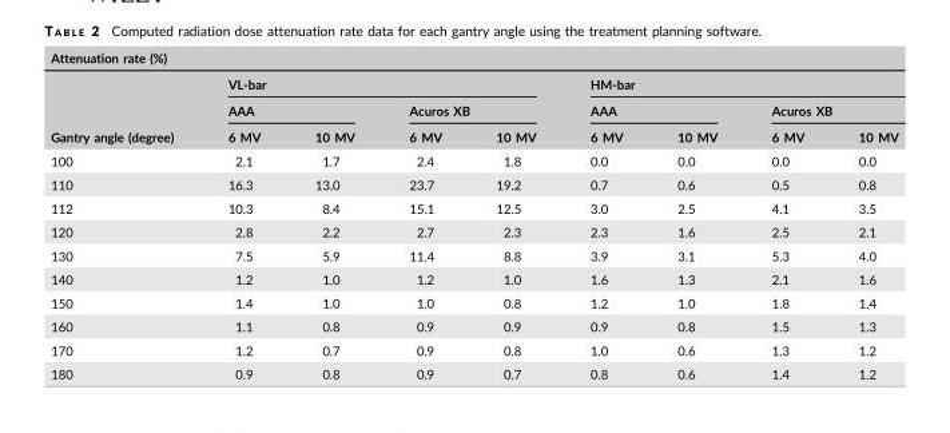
<table><thead><tr><td colspan="9">Attenuation rate (%)</td></tr><tr><td rowspan="3">Gantry angle (degree)</td><td colspan="4">VL-bar</td><td colspan="4">HM-bar</td></tr><tr><td colspan="2">AAA</td><td colspan="2">Acuros XB</td><td colspan="2">AAA</td><td colspan="2">Acuros XB</td></tr><tr><td>6 MV</td><td>10 MV</td><td>6 MV</td><td>10 MV</td><td>6 MV</td><td>10 MV</td><td>6 MV</td><td>10 MV</td></tr></thead><tbody><tr><td>100</td><td>2.1</td><td>1.7</td><td>2.4</td><td>1.8</td><td>0.0</td><td>0.0</td><td>0.0</td><td>0.0</td></tr><tr><td>110</td><td>16.3</td><td>13.0</td><td>23.7</td><td>19.2</td><td>0.7</td><td>0.6</td><td>0.5</td><td>0.8</td></tr><tr><td>112</td><td>10.3</td><td>8.4</td><td>15.1</td><td>12.5</td><td>3.0</td><td>2.5</td><td>4.1</td><td>3.5</td></tr><tr><td>120</td><td>2.8</td><td>2.2</td><td>2.7</td><td>2.3</td><td>2.3</td><td>1.6</td><td>2.5</td><td>2.1</td></tr><tr><td>130</td><td>7.5</td><td>5.9</td><td>11.4</td><td>8.8</td><td>3.9</td><td>3.1</td><td>5.3</td><td>4.0</td></tr><tr><td>140</td><td>1.2</td><td>1.0</td><td>1.2</td><td>1.0</td><td>1.6</td><td>1.3</td><td>2.1</td><td>1.6</td></tr><tr><td>150</td><td>1.4</td><td>1.0</td><td>1.0</td><td>0.8</td><td>1.2</td><td>1.0</td><td>1.8</td><td>1.4</td></tr><tr><td>160</td><td>1.1</td><td>0.8</td><td>0.9</td><td>0.9</td><td>0.9</td><td>0.8</td><td>1.5</td><td>1.3</td></tr><tr><td>170</td><td>1.2</td><td>0.7</td><td>0.9</td><td>0.8</td><td>1.0</td><td>0.6</td><td>1.3</td><td>1.2</td></tr><tr><td>180</td><td>0.9</td><td>0.8</td><td>0.9</td><td>0.7</td><td>0.8</td><td>0.6</td><td>1.4</td><td>1.2</td></tr></tbody></table>